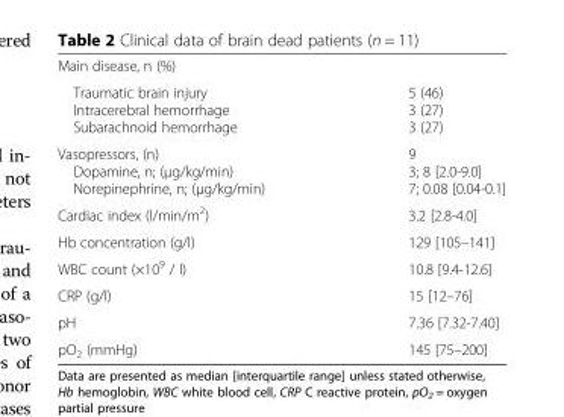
<table><tbody><tr><td colspan="2">Main disease, n (%)</td></tr><tr><td>Traumatic brain injury Intracerebral hemorrhage Subarachnoid hemorrhage</td><td>5 (46) 3 (27) 3 (27)</td></tr><tr><td>Vasopressors, (n) Dopamine, n; (μg/kg/min) Norepinephrine, n; (μg/kg/min)</td><td>9 3; 8 [2.0-9.0] 7; 0.08 [0.04-0.1]</td></tr><tr><td>Cardiac index (l/min/m<sup>2</sup>)</td><td>3.2 [2.8-4.0]</td></tr><tr><td>Hb concentration (g/l)</td><td>129 [105–141]</td></tr><tr><td>WBC count (×10<sup>9</sup> / l)</td><td>10.8 [9.4-12.6]</td></tr><tr><td>CRP (g/l)</td><td>15 [12–76]</td></tr><tr><td>pH</td><td>7.36 [7.32-7.40]</td></tr><tr><td>pO<sub>2</sub> (mmHg)</td><td>145 [75–200]</td></tr></tbody></table>